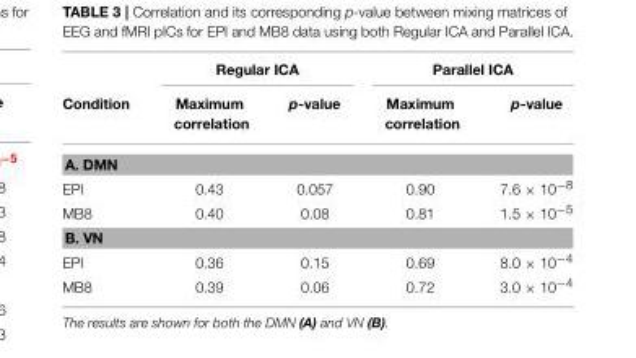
<table><thead><tr><td rowspan="2">Condition</td><td colspan="2">Regular ICA</td><td colspan="2">Parallel ICA</td></tr><tr><td>Maximum correlation</td><td>p-value</td><td>Maximum correlation</td><td>p-value</td></tr></thead><tbody><tr><td colspan="5">A. DMN</td></tr><tr><td>EPI</td><td>0.43</td><td>0.057</td><td>0.90</td><td>7.6 × 10<sup>−8</sup></td></tr><tr><td>MB8</td><td>0.40</td><td>0.08</td><td>0.81</td><td>1.5 × 10<sup>−5</sup></td></tr><tr><td colspan="5">B. VN</td></tr><tr><td>EPI</td><td>0.36</td><td>0.15</td><td>0.69</td><td>8.0 × 10<sup>−4</sup></td></tr><tr><td>MB8</td><td>0.39</td><td>0.06</td><td>0.72</td><td>3.0 × 10<sup>−4</sup></td></tr></tbody></table>